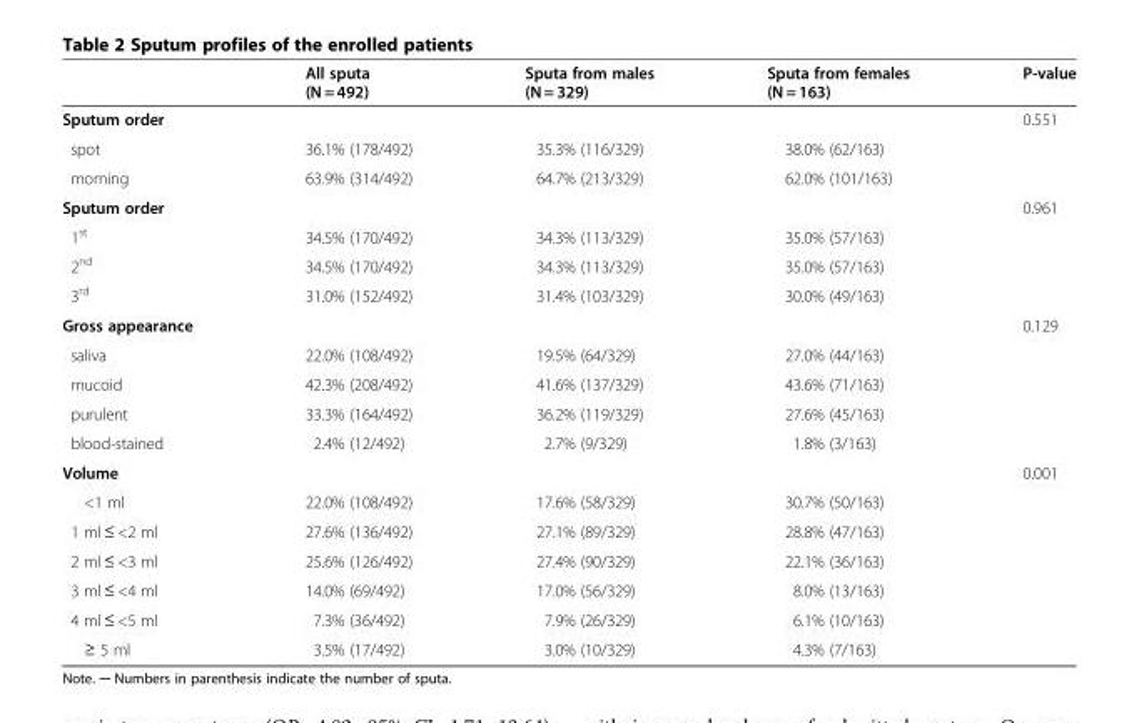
<table><thead><tr><td></td><td>All sputa (N = 492)</td><td>Sputa from males (N = 329)</td><td>Sputa from females (N = 163)</td><td>P-value</td></tr></thead><tbody><tr><td>Sputum order</td><td></td><td></td><td></td><td>0.551</td></tr><tr><td>spot</td><td>36.1% (178/492)</td><td>35.3% (116/329)</td><td>38.0% (62/163)</td><td></td></tr><tr><td>morning</td><td>63.9% (314/492)</td><td>64.7% (213/329)</td><td>62.0% (101/163)</td><td></td></tr><tr><td>Sputum order</td><td></td><td></td><td></td><td>0.961</td></tr><tr><td>1<sup>st</sup></td><td>34.5% (170/492)</td><td>34.3% (113/329)</td><td>35.0% (57/163)</td><td></td></tr><tr><td>2<sup>nd</sup></td><td>34.5% (170/492)</td><td>34.3% (113/329)</td><td>35.0% (57/163)</td><td></td></tr><tr><td>3<sup>rd</sup></td><td>31.0% (152/492)</td><td>31.4% (103/329)</td><td>30.0% (49/163)</td><td></td></tr><tr><td>Gross appearance</td><td></td><td></td><td></td><td>0.129</td></tr><tr><td>saliva</td><td>22.0% (108/492)</td><td>19.5% (64/329)</td><td>27.0% (44/163)</td><td></td></tr><tr><td>mucoid</td><td>42.3% (208/492)</td><td>41.6% (137/329)</td><td>43.6% (71/163)</td><td></td></tr><tr><td>purulent</td><td>33.3% (164/492)</td><td>36.2% (119/329)</td><td>27.6% (45/163)</td><td></td></tr><tr><td>blood-stained</td><td>2.4% (12/492)</td><td>2.7% (9/329)</td><td>1.8% (3/163)</td><td></td></tr><tr><td>Volume</td><td></td><td></td><td></td><td>0.001</td></tr><tr><td>&lt;1 ml</td><td>22.0% (108/492)</td><td>17.6% (58/329)</td><td>30.7% (50/163)</td><td></td></tr><tr><td>1 ml ≤ &lt;2 ml</td><td>27.6% (136/492)</td><td>27.1% (89/329)</td><td>28.8% (47/163)</td><td></td></tr><tr><td>2 ml ≤ &lt;3 ml</td><td>25.6% (126/492)</td><td>27.4% (90/329)</td><td>22.1% (36/163)</td><td></td></tr><tr><td>3 ml ≤ &lt;4 ml</td><td>14.0% (69/492)</td><td>17.0% (56/329)</td><td>8.0% (13/163)</td><td></td></tr><tr><td>4 ml ≤ &lt;5 ml</td><td>7.3% (36/492)</td><td>7.9% (26/329)</td><td>6.1% (10/163)</td><td></td></tr><tr><td>≥ 5 ml</td><td>3.5% (17/492)</td><td>3.0% (10/329)</td><td>4.3% (7/163)</td><td></td></tr></tbody></table>